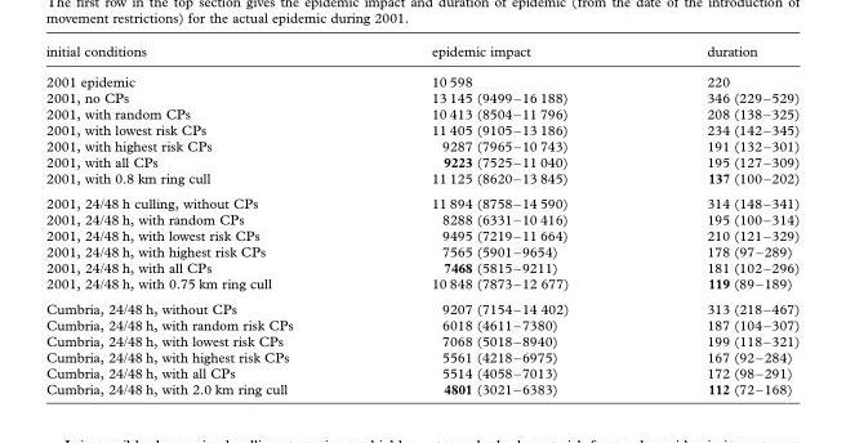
<table><thead><tr><td>initial conditions</td><td>epidemic impact</td><td>duration</td></tr></thead><tbody><tr><td>2001 epidemic</td><td>10 598</td><td>220</td></tr><tr><td>2001, no CPs</td><td>13 145 (9499–16 188)</td><td>346 (229–529)</td></tr><tr><td>2001, with random CPs</td><td>10 413 (8504–11 796)</td><td>208 (138–325)</td></tr><tr><td>2001, with lowest risk CPs</td><td>11 405 (9105–13 186)</td><td>234 (142–345)</td></tr><tr><td>2001, with highest risk CPs</td><td>9287 (7965–10 743)</td><td>191 (132–301)</td></tr><tr><td>2001, with all CPs</td><td>9223 (7525–11 040)</td><td>195 (127–309)</td></tr><tr><td>2001, with 0.8 km ring cull</td><td>11 125 (8620–13 845)</td><td>137 (100–202)</td></tr><tr><td>2001, 24/48 h culling, without CPs</td><td>11 894 (8758–14 590)</td><td>314 (148–341)</td></tr><tr><td>2001, 24/48 h, with random CPs</td><td>8288 (6331–10 416)</td><td>195 (100–314)</td></tr><tr><td>2001, 24/48 h, with lowest risk CPs</td><td>9495 (7219–11 664)</td><td>210 (121–329)</td></tr><tr><td>2001, 24/48 h, with highest risk CPs</td><td>7565 (5901–9654)</td><td>178 (97–289)</td></tr><tr><td>2001, 24/48 h, with all CPs</td><td>7468 (5815–9211)</td><td>181 (102–296)</td></tr><tr><td>2001, 24/48 h, with 0.75 km ring cull</td><td>10 848 (7873–12 677)</td><td>119 (89–189)</td></tr><tr><td>Cumbria, 24/48 h, without CPs</td><td>9207 (7154–14 402)</td><td>313 (218–467)</td></tr><tr><td>Cumbria, 24/48 h, with random risk CPs</td><td>6018 (4611–7380)</td><td>187 (104–307)</td></tr><tr><td>Cumbria, 24/48 h, with lowest risk CPs</td><td>7068 (5018–8940)</td><td>199 (118–321)</td></tr><tr><td>Cumbria, 24/48 h, with highest risk CPs</td><td>5561 (4218–6975)</td><td>167 (92–284)</td></tr><tr><td>Cumbria, 24/48 h, with all CPs</td><td>5514 (4058–7013)</td><td>172 (98–291)</td></tr><tr><td>Cumbria, 24/48 h, with 2.0 km ring cull</td><td>4801 (3021–6383)</td><td>112 (72–168)</td></tr></tbody></table>